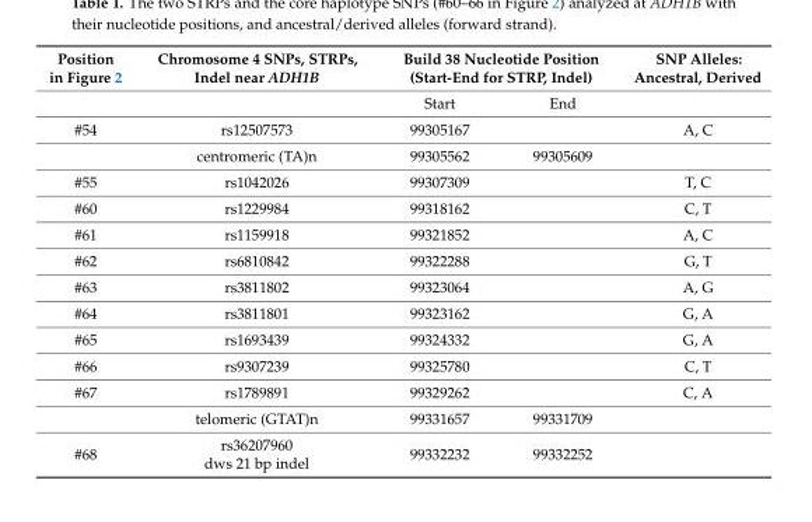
<table><thead><tr><td rowspan="2">Position in Figure 2</td><td rowspan="2">Chromosome 4 SNPs, STRPs, Indel near ADH1B</td><td colspan="2">Build 38 Nucleotide Position (Start-End for STRP, Indel)</td><td rowspan="2">SNP Alleles: Ancestral, Derived</td></tr><tr><td>Start</td><td>End</td></tr></thead><tbody><tr><td rowspan="2">#54</td><td>rs12507573</td><td>99305167</td><td></td><td>A, C</td></tr><tr><td>centromeric (TA)n</td><td>99305562</td><td>99305609</td><td></td></tr><tr><td>#55</td><td>rs1042026</td><td>99307309</td><td></td><td>T, C</td></tr><tr><td>#60</td><td>rs1229984</td><td>99318162</td><td></td><td>C, T</td></tr><tr><td>#61</td><td>rs1159918</td><td>99321852</td><td></td><td>A, C</td></tr><tr><td>#62</td><td>rs6810842</td><td>99322288</td><td></td><td>G, T</td></tr><tr><td>#63</td><td>rs3811802</td><td>99323064</td><td></td><td>A, G</td></tr><tr><td>#64</td><td>rs3811801</td><td>99323162</td><td></td><td>G, A</td></tr><tr><td>#65</td><td>rs1693439</td><td>99324332</td><td></td><td>G, A</td></tr><tr><td>#66</td><td>rs9307239</td><td>99325780</td><td></td><td>C, T</td></tr><tr><td rowspan="2">#67</td><td>rs1789891</td><td>99329262</td><td></td><td>C, A</td></tr><tr><td>telomeric (GTAT)n</td><td>99331657</td><td>99331709</td><td></td></tr><tr><td>#68</td><td>rs36207960 dws 21 bp indel</td><td>99332232</td><td>99332252</td><td></td></tr></tbody></table>